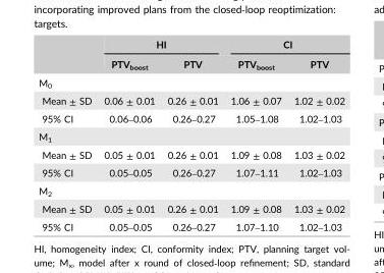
<table><thead><tr><td rowspan="2"></td><td colspan="2">HI</td><td colspan="2">CI</td></tr><tr><td>PTV<sub>boost</sub></td><td>PTV</td><td>PTV<sub>boost</sub></td><td>PTV</td></tr></thead><tbody><tr><td colspan="5">M<sub>0</sub></td></tr><tr><td>Mean ± SD</td><td>0.06 ± 0.01</td><td>0.26 ± 0.01</td><td>1.06 ± 0.07</td><td>1.02 ± 0.02</td></tr><tr><td>95% CI</td><td>0.06–0.06</td><td>0.26–0.27</td><td>1.05–1.08</td><td>1.02–1.03</td></tr><tr><td colspan="5">M<sub>1</sub></td></tr><tr><td>Mean ± SD</td><td>0.05 ± 0.01</td><td>0.26 ± 0.01</td><td>1.09 ± 0.08</td><td>1.03 ± 0.02</td></tr><tr><td>95% CI</td><td>0.05–0.05</td><td>0.26–0.27</td><td>1.07–1.11</td><td>1.02–1.03</td></tr><tr><td colspan="5">M<sub>2</sub></td></tr><tr><td>Mean ± SD</td><td>0.05 ± 0.01</td><td>0.26 ± 0.01</td><td>1.09 ± 0.08</td><td>1.03 ± 0.02</td></tr><tr><td>95% CI</td><td>0.05–0.05</td><td>0.26–0.27</td><td>1.07–1.10</td><td>1.02–1.03</td></tr></tbody></table>